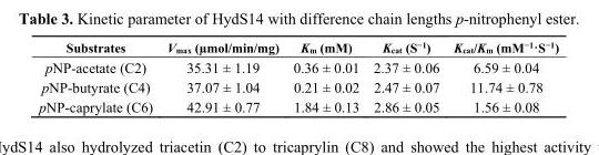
<table><thead><tr><td>Substrates</td><td>V<sub>max</sub> (µmol/min/mg)</td><td>K<sub>m</sub> (mM)</td><td>K<sub>cat</sub> (S<sup>−1</sup>)</td><td>K<sub>cat</sub>/K<sub>m</sub> (mM<sup>−1</sup>·S<sup>−1</sup>)</td></tr></thead><tbody><tr><td>pNP-acetate (C2)</td><td>35.31 ± 1.19</td><td>0.36 ± 0.01</td><td>2.37 ± 0.06</td><td>6.59 ± 0.04</td></tr><tr><td>pNP-butyrate (C4)</td><td>37.07 ± 1.04</td><td>0.21 ± 0.02</td><td>2.47 ± 0.07</td><td>11.74 ± 0.78</td></tr><tr><td>pNP-caprylate (C6)</td><td>42.91 ± 0.77</td><td>1.84 ± 0.13</td><td>2.86 ± 0.05</td><td>1.56 ± 0.08</td></tr></tbody></table>